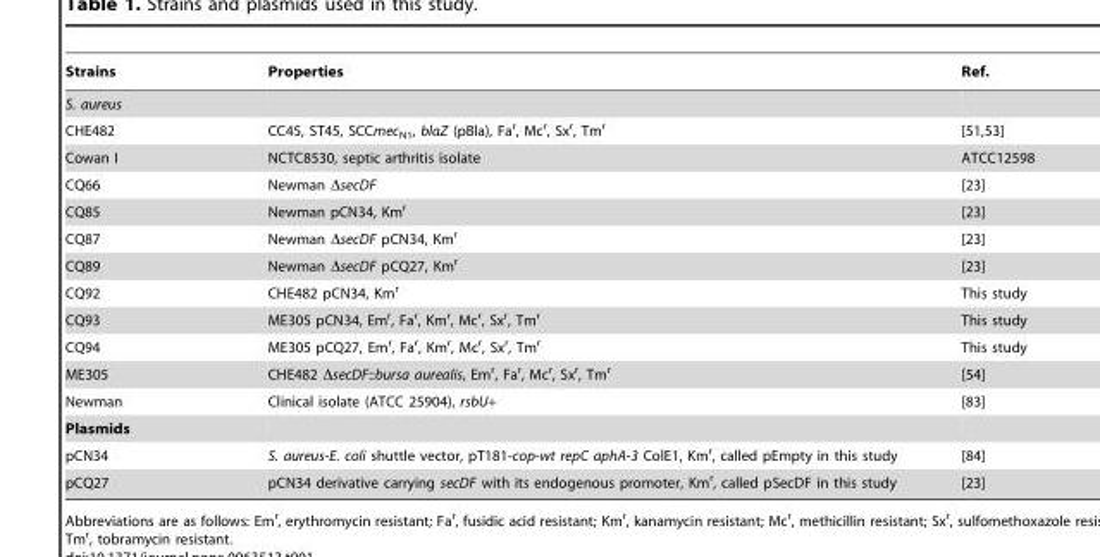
<table><thead><tr><td>Strains</td><td>Properties</td><td>Ref.</td></tr></thead><tbody><tr><td colspan="3">S. aureus</td></tr><tr><td>CHE482</td><td>CC45, ST45, SCCmec<sub>N1</sub>, blaZ (pBla), Fa<sup>r</sup>, Mc<sup>r</sup>, Sx<sup>r</sup>, Tm<sup>r</sup></td><td>[51,53]</td></tr><tr><td>Cowan I</td><td>NCTC8530, septic arthritis isolate</td><td>ATCC12598</td></tr><tr><td>CQ66</td><td>Newman ΔsecDF</td><td>[23]</td></tr><tr><td>CQ85</td><td>Newman pCN34, Km<sup>r</sup></td><td>[23]</td></tr><tr><td>CQ87</td><td>Newman ΔsecDF pCN34, Km<sup>r</sup></td><td>[23]</td></tr><tr><td>CQ89</td><td>Newman ΔsecDF pCQ27, Km<sup>r</sup></td><td>[23]</td></tr><tr><td>CQ92</td><td>CHE482 pCN34, Km<sup>r</sup></td><td>This study</td></tr><tr><td>CQ93</td><td>ME305 pCN34, Em<sup>r</sup>, Fa<sup>r</sup>, Km<sup>r</sup>, Mc<sup>r</sup>, Sx<sup>r</sup>, Tm<sup>r</sup></td><td>This study</td></tr><tr><td>CQ94</td><td>ME305 pCQ27, Em<sup>r</sup>, Fa<sup>r</sup>, Km<sup>r</sup>, Mc<sup>r</sup>, Sx<sup>r</sup>, Tm<sup>r</sup></td><td>This study</td></tr><tr><td>ME305</td><td>CHE482 ΔsecDF::bursa aurealis, Em<sup>r</sup>, Fa<sup>r</sup>, Mc<sup>r</sup>, Sx<sup>r</sup>, Tm<sup>r</sup></td><td>[54]</td></tr><tr><td>Newman</td><td>Clinical isolate (ATCC 25904), rsbU+</td><td>[83]</td></tr><tr><td colspan="3">Plasmids</td></tr><tr><td>pCN34</td><td>S. aureus-E. coli shuttle vector, pT181-cop-wt repC aphA-3 ColE1, Km<sup>r</sup>, called pEmpty in this study</td><td>[84]</td></tr><tr><td>pCQ27</td><td>pCN34 derivative carrying secDF with its endogenous promoter, Km<sup>r</sup>, called pSecDF in this study</td><td>[23]</td></tr></tbody></table>